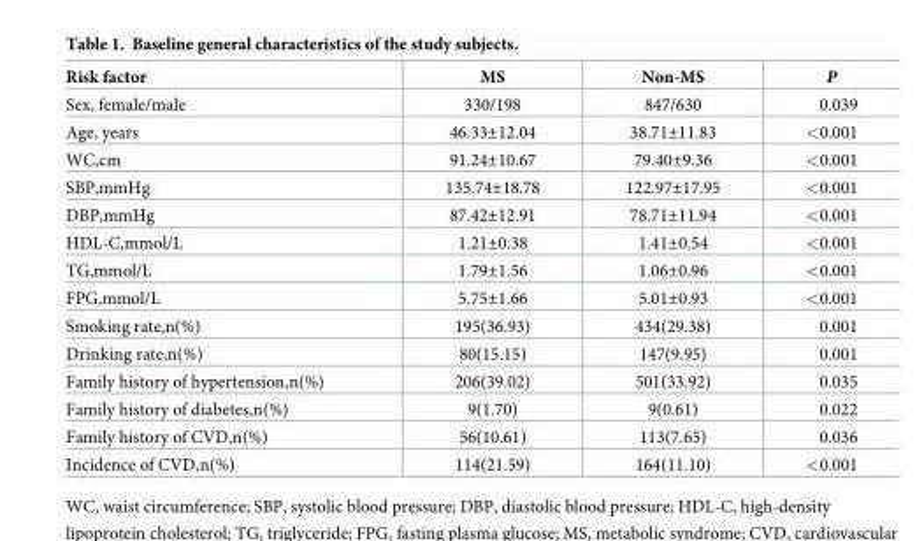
<table><thead><tr><td>Risk factor</td><td>MS</td><td>Non-MS</td><td>P</td></tr></thead><tbody><tr><td>Sex, female/male</td><td>330/198</td><td>847/630</td><td>0.039</td></tr><tr><td>Age, years</td><td>46.33±12.04</td><td>38.71±11.83</td><td>&lt;0.001</td></tr><tr><td>WC,cm</td><td>91.24±10.67</td><td>79.40±9.36</td><td>&lt;0.001</td></tr><tr><td>SBP,mmHg</td><td>135.74±18.78</td><td>122.97±17.95</td><td>&lt;0.001</td></tr><tr><td>DBP,mmHg</td><td>87.42±12.91</td><td>78.71±11.94</td><td>&lt;0.001</td></tr><tr><td>HDL-C,mmol/L</td><td>1.21±0.38</td><td>1.41±0.54</td><td>&lt;0.001</td></tr><tr><td>TG,mmol/L</td><td>1.79±1.56</td><td>1.06±0.96</td><td>&lt;0.001</td></tr><tr><td>FPG,mmol/L</td><td>5.75±1.66</td><td>5.01±0.93</td><td>&lt;0.001</td></tr><tr><td>Smoking rate,n(%)</td><td>195(36.93)</td><td>434(29.38)</td><td>0.001</td></tr><tr><td>Drinking rate,n(%)</td><td>80(15.15)</td><td>147(9.95)</td><td>0.001</td></tr><tr><td>Family history of hypertension,n(%)</td><td>206(39.02)</td><td>501(33.92)</td><td>0.035</td></tr><tr><td>Family history of diabetes,n(%)</td><td>9(1.70)</td><td>9(0.61)</td><td>0.022</td></tr><tr><td>Family history of CVD,n(%)</td><td>56(10.61)</td><td>113(7.65)</td><td>0.036</td></tr><tr><td>Incidence of CVD,n(%)</td><td>114(21.59)</td><td>164(11.10)</td><td>&lt;0.001</td></tr></tbody></table>